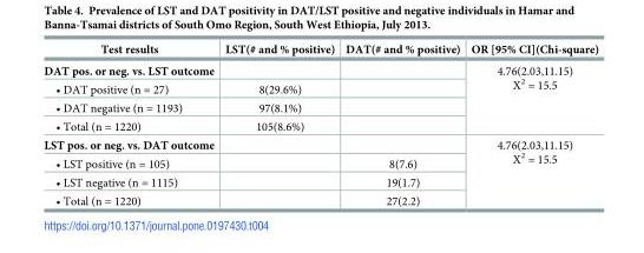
<table><thead><tr><td>Test results</td><td>LST(# and % positive)</td><td>DAT(# and % positive)</td><td>OR [95% CI](Chi-square)</td></tr></thead><tbody><tr><td colspan="3">DAT pos. or neg. vs. LST outcome</td><td rowspan="4">4.76(2.03,11.15) X<sup>2</sup> = 15.5</td></tr><tr><td>• DAT positive (n = 27)</td><td>8(29.6%)</td><td></td></tr><tr><td>• DAT negative (n = 1193)</td><td>97(8.1%)</td><td></td></tr><tr><td>• Total (n = 1220)</td><td>105(8.6%)</td><td></td></tr><tr><td colspan="3">LST pos. or neg. vs. DAT outcome</td><td rowspan="4">4.76(2.03,11.15) X<sup>2</sup> = 15.5</td></tr><tr><td>• LST positive (n = 105)</td><td></td><td>8(7.6)</td></tr><tr><td>• LST negative (n = 1115)</td><td></td><td>19(1.7)</td></tr><tr><td>• Total (n = 1220)</td><td></td><td>27(2.2)</td></tr></tbody></table>